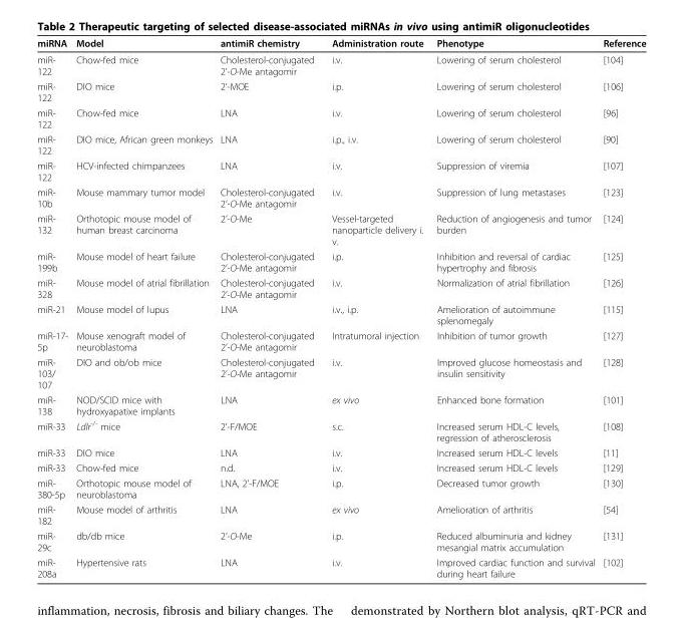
<table><thead><tr><td>miRNA</td><td>Model</td><td>antimiR chemistry</td><td>Administration route</td><td>Phenotype</td><td>Reference</td></tr></thead><tbody><tr><td>miR- 122</td><td>Chow-fed mice</td><td>Cholesterol-conjugated 2’-O-Me antagomir</td><td>i.v.</td><td>Lowering of serum cholesterol</td><td>[104]</td></tr><tr><td>miR- 122</td><td>DIO mice</td><td>2’-MOE</td><td>i.p.</td><td>Lowering of serum cholesterol</td><td>[106]</td></tr><tr><td>miR- 122</td><td>Chow-fed mice</td><td>LNA</td><td>i.v.</td><td>Lowering of serum cholesterol</td><td>[96]</td></tr><tr><td>miR- 122</td><td>DIO mice, African green monkeys</td><td>LNA</td><td>i.p., i.v.</td><td>Lowering of serum cholesterol</td><td>[90]</td></tr><tr><td>miR- 122</td><td>HCV-infected chimpanzees</td><td>LNA</td><td>i.v.</td><td>Suppression of viremia</td><td>[107]</td></tr><tr><td>miR- 10b</td><td>Mouse mammary tumor model</td><td>Cholesterol-conjugated 2’-O-Me antagomir</td><td>i.v.</td><td>Suppression of lung metastases</td><td>[123]</td></tr><tr><td>miR- 132</td><td>Orthotopic mouse model of human breast carcinoma</td><td>2’-O-Me</td><td>Vessel-targeted nanoparticle delivery i. v.</td><td>Reduction of angiogenesis and tumor burden</td><td>[124]</td></tr><tr><td>miR- 199b</td><td>Mouse model of heart failure</td><td>Cholesterol-conjugated 2’-O-Me antagomir</td><td>i.p.</td><td>Inhibition and reversal of cardiac hypertrophy and fibrosis</td><td>[125]</td></tr><tr><td>miR- 328</td><td>Mouse model of atrial fibrillation</td><td>Cholesterol-conjugated 2’-O-Me antagomir</td><td>i.v.</td><td>Normalization of atrial fibrillation</td><td>[126]</td></tr><tr><td>miR-21</td><td>Mouse model of lupus</td><td>LNA</td><td>i.v., i.p.</td><td>Amelioration of autoimmune splenomegaly</td><td>[115]</td></tr><tr><td>miR-17- 5p</td><td>Mouse xenograft model of neuroblastoma</td><td>Cholesterol-conjugated 2’-O-Me antagomir</td><td>Intratumoral injection</td><td>Inhibition of tumor growth</td><td>[127]</td></tr><tr><td>miR- 103/ 107</td><td>DIO and ob/ob mice</td><td>Cholesterol-conjugated 2’-O-Me antagomir</td><td>i.v.</td><td>Improved glucose homeostasis and insulin sensitivity</td><td>[128]</td></tr><tr><td>miR- 138</td><td>NOD/SCID mice with hydroxyapatixe implants</td><td>LNA</td><td>ex vivo</td><td>Enhanced bone formation</td><td>[101]</td></tr><tr><td>miR-33</td><td>Ldlr<sup>-/-</sup> mice</td><td>2’-F/MOE</td><td>s.c.</td><td>Increased serum HDL-C levels, regression of atherosclerosis</td><td>[108]</td></tr><tr><td>miR-33</td><td>DIO mice</td><td>LNA</td><td>i.v.</td><td>Increased serum HDL-C levels</td><td>[11]</td></tr><tr><td>miR-33</td><td>Chow-fed mice</td><td>n.d.</td><td>i.v.</td><td>Increased serum HDL-C levels</td><td>[129]</td></tr><tr><td>miR- 380-5p</td><td>Orthotopic mouse model of neuroblastoma</td><td>LNA, 2’-F/MOE</td><td>i.p.</td><td>Decreased tumor growth</td><td>[130]</td></tr><tr><td>miR- 182</td><td>Mouse model of arthritis</td><td>LNA</td><td>ex vivo</td><td>Amelioration of arthritis</td><td>[54]</td></tr><tr><td>miR- 29c</td><td>db/db mice</td><td>2’-O-Me</td><td>i.p.</td><td>Reduced albuminuria and kidney mesangial matrix accumulation</td><td>[131]</td></tr><tr><td>miR- 208a</td><td>Hypertensive rats</td><td>LNA</td><td>i.v.</td><td>Improved cardiac function and survival during heart failure</td><td>[102]</td></tr></tbody></table>